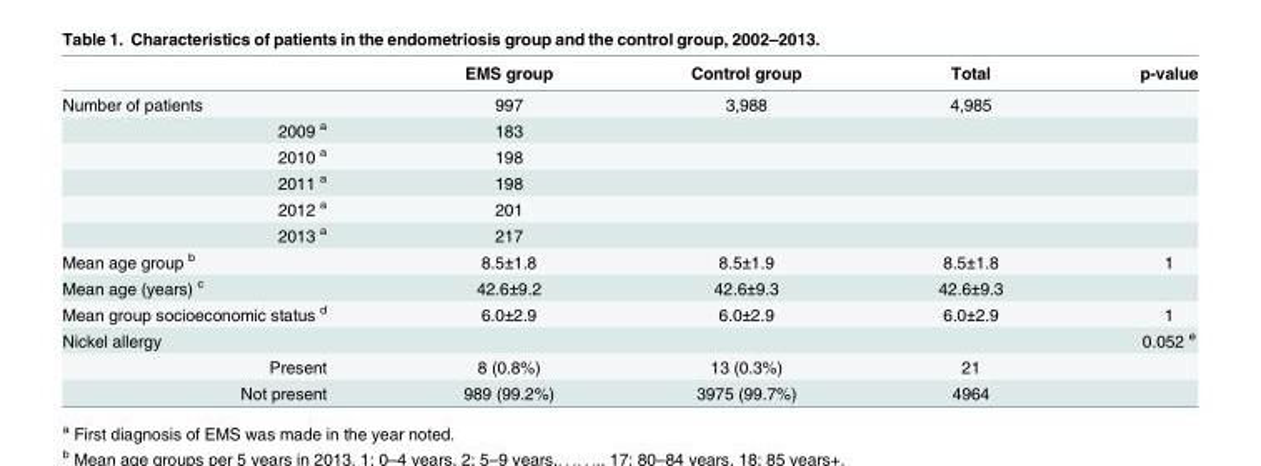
<table><thead><tr><td></td><td>EMS group</td><td>Control group</td><td>Total</td><td>p-value</td></tr></thead><tbody><tr><td>Number of patients</td><td>997</td><td>3,988</td><td>4,985</td><td></td></tr><tr><td>2009 <sup>a</sup></td><td>183</td><td></td><td></td><td></td></tr><tr><td>2010 <sup>a</sup></td><td>198</td><td></td><td></td><td></td></tr><tr><td>2011 <sup>a</sup></td><td>198</td><td></td><td></td><td></td></tr><tr><td>2012 <sup>a</sup></td><td>201</td><td></td><td></td><td></td></tr><tr><td>2013 <sup>a</sup></td><td>217</td><td></td><td></td><td></td></tr><tr><td>Mean age group <sup>b</sup></td><td>8.5±1.8</td><td>8.5±1.9</td><td>8.5±1.8</td><td>1</td></tr><tr><td>Mean age (years) <sup>c</sup></td><td>42.6±9.2</td><td>42.6±9.3</td><td>42.6±9.3</td><td></td></tr><tr><td>Mean group socioeconomic status <sup>d</sup></td><td>6.0±2.9</td><td>6.0±2.9</td><td>6.0±2.9</td><td>1</td></tr><tr><td>Nickel allergy</td><td></td><td></td><td></td><td>0.052 <sup>e</sup></td></tr><tr><td>Present</td><td>8 (0.8%)</td><td>13 (0.3%)</td><td>21</td><td></td></tr><tr><td>Not present</td><td>989 (99.2%)</td><td>3975 (99.7%)</td><td>4964</td><td></td></tr></tbody></table>